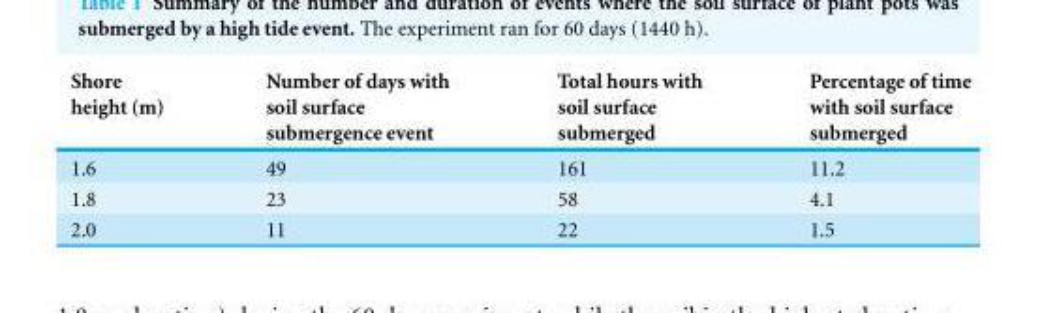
<table><thead><tr><td>Shore height (m)</td><td>Number of days with soil surface submergence event</td><td>Total hours with soil surface submerged</td><td>Percentage of time with soil surface submerged</td></tr></thead><tbody><tr><td>1.6</td><td>49</td><td>161</td><td>11.2</td></tr><tr><td>1.8</td><td>23</td><td>58</td><td>4.1</td></tr><tr><td>2.0</td><td>11</td><td>22</td><td>1.5</td></tr></tbody></table>